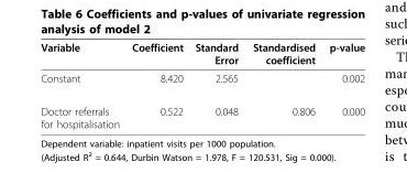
<table><thead><tr><td>Variable</td><td>Coefficient</td><td>Standard Error</td><td>Standardised coefficient</td><td>p-value</td></tr></thead><tbody><tr><td>Constant</td><td>8.420</td><td>2.565</td><td></td><td>0.002</td></tr><tr><td>Doctor referrals for hospitalisation</td><td>0.522</td><td>0.048</td><td>0.806</td><td>0.000</td></tr></tbody></table>